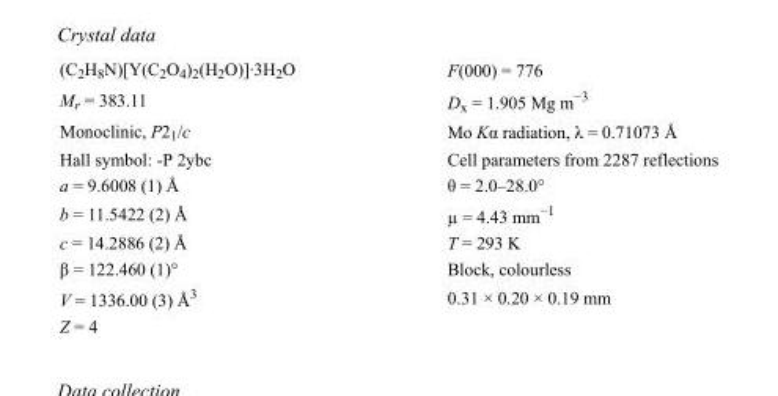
<table><tbody><tr><td>(C<sub>2</sub>H<sub>8</sub>N)[Y(C<sub>2</sub>O<sub>4</sub>)<sub>2</sub>(H<sub>2</sub>O)]·3H<sub>2</sub>O</td><td>F(000) = 776</td></tr><tr><td>M<sub>r</sub> = 383.11</td><td>D<sub>x</sub> = 1.905 Mg m<sup>−3</sup></td></tr><tr><td>Monoclinic, P2<sub>1</sub>/c</td><td>Mo Kα radiation, λ = 0.71073 Å</td></tr><tr><td>Hall symbol: -P 2ybc</td><td>Cell parameters from 2287 reflections</td></tr><tr><td>a = 9.6008 (1) Å</td><td>θ = 2.0–28.0°</td></tr><tr><td>b = 11.5422 (2) Å</td><td>µ = 4.43 mm<sup>−1</sup></td></tr><tr><td>c = 14.2886 (2) Å</td><td>T = 293 K</td></tr><tr><td>β = 122.460 (1)°</td><td>Block, colourless</td></tr><tr><td>V = 1336.00 (3) Å<sup>3</sup></td><td>0.31 × 0.20 × 0.19 mm</td></tr><tr><td>Z = 4</td><td></td></tr></tbody></table>